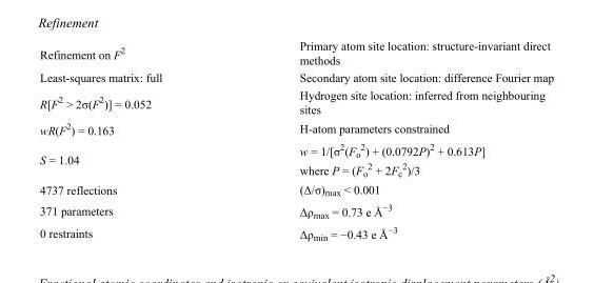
<table><tbody><tr><td>Refinement on F<sup>2</sup></td><td>Primary atom site location: structure-invariant direct methods</td></tr><tr><td>Least-squares matrix: full</td><td>Secondary atom site location: difference Fourier map</td></tr><tr><td>R[F<sup>2</sup> &gt; 2σ(F<sup>2</sup>)] = 0.052</td><td>Hydrogen site location: inferred from neighbouring sites</td></tr><tr><td>wR(F<sup>2</sup>) = 0.163</td><td>H-atom parameters constrained</td></tr><tr><td>S = 1.04</td><td>w = 1/[σ<sup>2</sup>(F<sub>o</sub> <sup>2</sup>) + (0.0792P)<sup>2</sup> + 0.613P] where P = (F<sub>o</sub> <sup>2</sup> + 2F<sub>c</sub> <sup>2</sup>)/3</td></tr><tr><td>4737 reflections</td><td>(Δ/σ)<sub>max</sub> &lt; 0.001</td></tr><tr><td>371 parameters</td><td>Δρ<sub>max</sub> = 0.73 e Å<sup>−3</sup></td></tr><tr><td>0 restraints</td><td>Δρ<sub>min</sub> = −0.43 e Å<sup>−3</sup></td></tr></tbody></table>